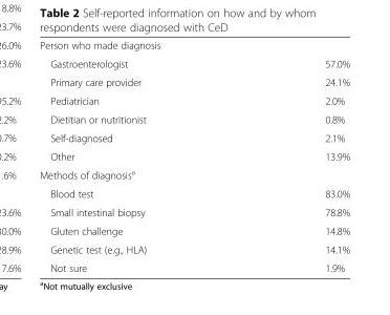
<table><tbody><tr><td colspan="2">Person who made diagnosis</td></tr><tr><td>Gastroenterologist</td><td>57.0%</td></tr><tr><td>Primary care provider</td><td>24.1%</td></tr><tr><td>Pediatrician</td><td>2.0%</td></tr><tr><td>Dietitian or nutritionist</td><td>0.8%</td></tr><tr><td>Self-diagnosed</td><td>2.1%</td></tr><tr><td>Other</td><td>13.9%</td></tr><tr><td colspan="2">Methods of diagnosis<sup>a</sup></td></tr><tr><td>Blood test</td><td>83.0%</td></tr><tr><td>Small intestinal biopsy</td><td>78.8%</td></tr><tr><td>Gluten challenge</td><td>14.8%</td></tr><tr><td>Genetic test (e.g., HLA)</td><td>14.1%</td></tr><tr><td>Not sure</td><td>1.9%</td></tr></tbody></table>